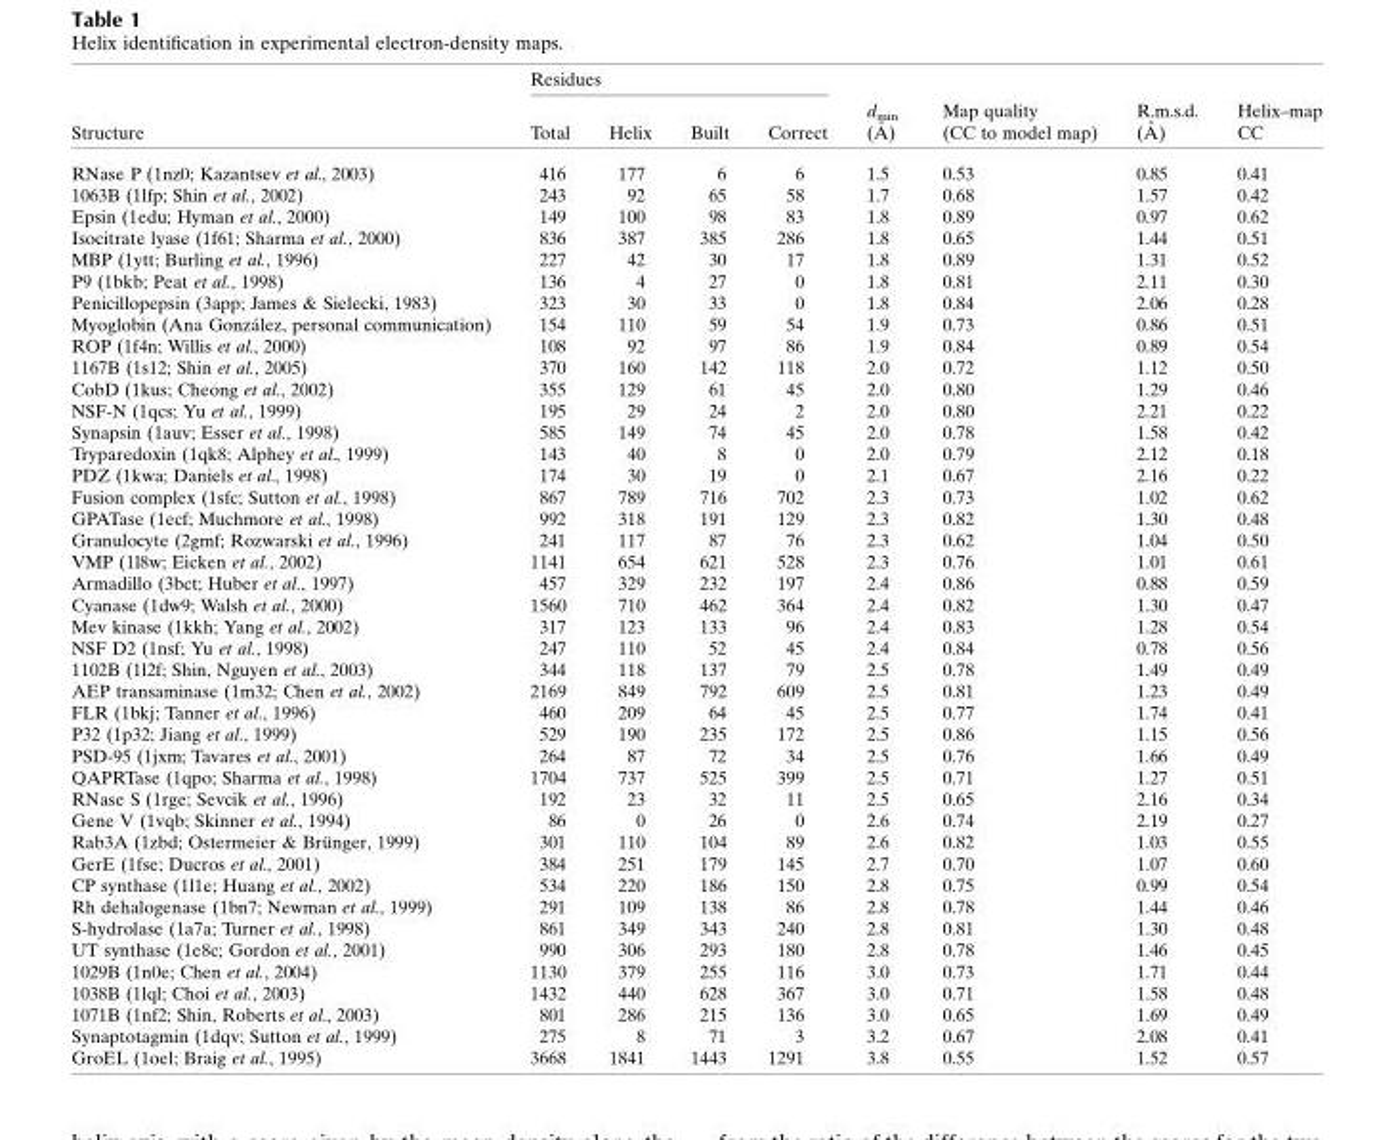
<table><thead><tr><td rowspan="2">Structure</td><td colspan="4">Residues</td><td rowspan="2">dmin (A˚ )</td><td rowspan="2">Map quality (CC to model map)</td><td rowspan="2">R.m.s.d. (A˚ )</td><td rowspan="2">Helix–map CC</td></tr><tr><td>Total</td><td>Helix</td><td>Built</td><td>Correct</td></tr></thead><tbody><tr><td>RNase P (1nz0; Kazantsev et al., 2003)</td><td>416</td><td>177</td><td>6</td><td>6</td><td>1.5</td><td>0.53</td><td>0.85</td><td>0.41</td></tr><tr><td>1063B (1lfp; Shin et al., 2002)</td><td>243</td><td>92</td><td>65</td><td>58</td><td>1.7</td><td>0.68</td><td>1.57</td><td>0.42</td></tr><tr><td>Epsin (1edu; Hyman et al., 2000)</td><td>149</td><td>100</td><td>98</td><td>83</td><td>1.8</td><td>0.89</td><td>0.97</td><td>0.62</td></tr><tr><td>Isocitrate lyase (1f61; Sharma et al., 2000)</td><td>836</td><td>387</td><td>385</td><td>286</td><td>1.8</td><td>0.65</td><td>1.44</td><td>0.51</td></tr><tr><td>MBP (1ytt; Burling et al., 1996)</td><td>227</td><td>42</td><td>30</td><td>17</td><td>1.8</td><td>0.89</td><td>1.31</td><td>0.52</td></tr><tr><td>P9 (1bkb; Peat et al., 1998)</td><td>136</td><td>4</td><td>27</td><td>0</td><td>1.8</td><td>0.81</td><td>2.11</td><td>0.30</td></tr><tr><td>Penicillopepsin (3app; James &amp; Sielecki, 1983)</td><td>323</td><td>30</td><td>33</td><td>0</td><td>1.8</td><td>0.84</td><td>2.06</td><td>0.28</td></tr><tr><td>Myoglobin (Ana Gonza´lez, personal communication)</td><td>154</td><td>110</td><td>59</td><td>54</td><td>1.9</td><td>0.73</td><td>0.86</td><td>0.51</td></tr><tr><td>ROP (1f4n; Willis et al., 2000)</td><td>108</td><td>92</td><td>97</td><td>86</td><td>1.9</td><td>0.84</td><td>0.89</td><td>0.54</td></tr><tr><td>1167B (1s12; Shin et al., 2005)</td><td>370</td><td>160</td><td>142</td><td>118</td><td>2.0</td><td>0.72</td><td>1.12</td><td>0.50</td></tr><tr><td>CobD (1kus; Cheong et al., 2002)</td><td>355</td><td>129</td><td>61</td><td>45</td><td>2.0</td><td>0.80</td><td>1.29</td><td>0.46</td></tr><tr><td>NSF-N (1qcs; Yu et al., 1999)</td><td>195</td><td>29</td><td>24</td><td>2</td><td>2.0</td><td>0.80</td><td>2.21</td><td>0.22</td></tr><tr><td>Synapsin (1auv; Esser et al., 1998)</td><td>585</td><td>149</td><td>74</td><td>45</td><td>2.0</td><td>0.78</td><td>1.58</td><td>0.42</td></tr><tr><td>Tryparedoxin (1qk8; Alphey et al., 1999)</td><td>143</td><td>40</td><td>8</td><td>0</td><td>2.0</td><td>0.79</td><td>2.12</td><td>0.18</td></tr><tr><td>PDZ (1kwa; Daniels et al., 1998)</td><td>174</td><td>30</td><td>19</td><td>0</td><td>2.1</td><td>0.67</td><td>2.16</td><td>0.22</td></tr><tr><td>Fusion complex (1sfc; Sutton et al., 1998)</td><td>867</td><td>789</td><td>716</td><td>702</td><td>2.3</td><td>0.73</td><td>1.02</td><td>0.62</td></tr><tr><td>GPATase (1ecf; Muchmore et al., 1998)</td><td>992</td><td>318</td><td>191</td><td>129</td><td>2.3</td><td>0.82</td><td>1.30</td><td>0.48</td></tr><tr><td>Granulocyte (2gmf; Rozwarski et al., 1996)</td><td>241</td><td>117</td><td>87</td><td>76</td><td>2.3</td><td>0.62</td><td>1.04</td><td>0.50</td></tr><tr><td>VMP (1l8w; Eicken et al., 2002)</td><td>1141</td><td>654</td><td>621</td><td>528</td><td>2.3</td><td>0.76</td><td>1.01</td><td>0.61</td></tr><tr><td>Armadillo (3bct; Huber et al., 1997)</td><td>457</td><td>329</td><td>232</td><td>197</td><td>2.4</td><td>0.86</td><td>0.88</td><td>0.59</td></tr><tr><td>Cyanase (1dw9; Walsh et al., 2000)</td><td>1560</td><td>710</td><td>462</td><td>364</td><td>2.4</td><td>0.82</td><td>1.30</td><td>0.47</td></tr><tr><td>Mev kinase (1kkh; Yang et al., 2002)</td><td>317</td><td>123</td><td>133</td><td>96</td><td>2.4</td><td>0.83</td><td>1.28</td><td>0.54</td></tr><tr><td>NSF D2 (1nsf; Yu et al., 1998)</td><td>247</td><td>110</td><td>52</td><td>45</td><td>2.4</td><td>0.84</td><td>0.78</td><td>0.56</td></tr><tr><td>1102B (1l2f; Shin, Nguyen et al., 2003)</td><td>344</td><td>118</td><td>137</td><td>79</td><td>2.5</td><td>0.78</td><td>1.49</td><td>0.49</td></tr><tr><td>AEP transaminase (1m32; Chen et al., 2002)</td><td>2169</td><td>849</td><td>792</td><td>609</td><td>2.5</td><td>0.81</td><td>1.23</td><td>0.49</td></tr><tr><td>FLR (1bkj; Tanner et al., 1996)</td><td>460</td><td>209</td><td>64</td><td>45</td><td>2.5</td><td>0.77</td><td>1.74</td><td>0.41</td></tr><tr><td>P32 (1p32; Jiang et al., 1999)</td><td>529</td><td>190</td><td>235</td><td>172</td><td>2.5</td><td>0.86</td><td>1.15</td><td>0.56</td></tr><tr><td>PSD-95 (1jxm; Tavares et al., 2001)</td><td>264</td><td>87</td><td>72</td><td>34</td><td>2.5</td><td>0.76</td><td>1.66</td><td>0.49</td></tr><tr><td>QAPRTase (1qpo; Sharma et al., 1998)</td><td>1704</td><td>737</td><td>525</td><td>399</td><td>2.5</td><td>0.71</td><td>1.27</td><td>0.51</td></tr><tr><td>RNase S (1rge; Sevcik et al., 1996)</td><td>192</td><td>23</td><td>32</td><td>11</td><td>2.5</td><td>0.65</td><td>2.16</td><td>0.34</td></tr><tr><td>Gene V (1vqb; Skinner et al., 1994)</td><td>86</td><td>0</td><td>26</td><td>0</td><td>2.6</td><td>0.74</td><td>2.19</td><td>0.27</td></tr><tr><td>Rab3A (1zbd; Ostermeier &amp; Bru¨nger, 1999)</td><td>301</td><td>110</td><td>104</td><td>89</td><td>2.6</td><td>0.82</td><td>1.03</td><td>0.55</td></tr><tr><td>GerE (1fse; Ducros et al., 2001)</td><td>384</td><td>251</td><td>179</td><td>145</td><td>2.7</td><td>0.70</td><td>1.07</td><td>0.60</td></tr><tr><td>CP synthase (1l1e; Huang et al., 2002)</td><td>534</td><td>220</td><td>186</td><td>150</td><td>2.8</td><td>0.75</td><td>0.99</td><td>0.54</td></tr><tr><td>Rh dehalogenase (1bn7; Newman et al., 1999)</td><td>291</td><td>109</td><td>138</td><td>86</td><td>2.8</td><td>0.78</td><td>1.44</td><td>0.46</td></tr><tr><td>S-hydrolase (1a7a; Turner et al., 1998)</td><td>861</td><td>349</td><td>343</td><td>240</td><td>2.8</td><td>0.81</td><td>1.30</td><td>0.48</td></tr><tr><td>UT synthase (1e8c; Gordon et al., 2001)</td><td>990</td><td>306</td><td>293</td><td>180</td><td>2.8</td><td>0.78</td><td>1.46</td><td>0.45</td></tr><tr><td>1029B (1n0e; Chen et al., 2004)</td><td>1130</td><td>379</td><td>255</td><td>116</td><td>3.0</td><td>0.73</td><td>1.71</td><td>0.44</td></tr><tr><td>1038B (1lql; Choi et al., 2003)</td><td>1432</td><td>440</td><td>628</td><td>367</td><td>3.0</td><td>0.71</td><td>1.58</td><td>0.48</td></tr><tr><td>1071B (1nf2; Shin, Roberts et al., 2003)</td><td>801</td><td>286</td><td>215</td><td>136</td><td>3.0</td><td>0.65</td><td>1.69</td><td>0.49</td></tr><tr><td>Synaptotagmin (1dqv; Sutton et al., 1999)</td><td>275</td><td>8</td><td>71</td><td>3</td><td>3.2</td><td>0.67</td><td>2.08</td><td>0.41</td></tr><tr><td>GroEL (1oel; Braig et al., 1995)</td><td>3668</td><td>1841</td><td>1443</td><td>1291</td><td>3.8</td><td>0.55</td><td>1.52</td><td>0.57</td></tr></tbody></table>